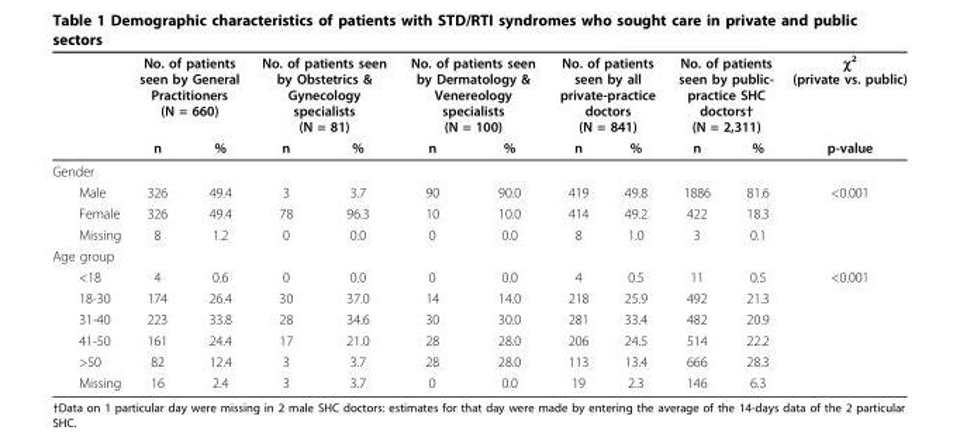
<table><thead><tr><td rowspan="2"></td><td colspan="2">No. of patients seen by General Practitioners (N = 660)</td><td colspan="2">No. of patients seen by Obstetrics &amp; Gynecology specialists (N = 81)</td><td colspan="2">No. of patients seen by Dermatology &amp; Venereology specialists (N = 100)</td><td colspan="2">No. of patients seen by all private-practice doctors (N = 841)</td><td colspan="2">No. of patients seen by public- practice SHC doctors† (N = 2,311)</td><td rowspan="2">χ<sup>2</sup> (private vs. public) p-value</td></tr><tr><td>n</td><td>%</td><td>n</td><td>%</td><td>n</td><td>%</td><td>n</td><td>%</td><td>n</td><td>%</td></tr></thead><tbody><tr><td colspan="12">Gender</td></tr><tr><td>Male</td><td>326</td><td>49.4</td><td>3</td><td>3.7</td><td>90</td><td>90.0</td><td>419</td><td>49.8</td><td>1886</td><td>81.6</td><td>&lt;0.001</td></tr><tr><td>Female</td><td>326</td><td>49.4</td><td>78</td><td>96.3</td><td>10</td><td>10.0</td><td>414</td><td>49.2</td><td>422</td><td>18.3</td><td></td></tr><tr><td>Missing</td><td>8</td><td>1.2</td><td>0</td><td>0.0</td><td>0</td><td>0.0</td><td>8</td><td>1.0</td><td>3</td><td>0.1</td><td></td></tr><tr><td colspan="12">Age group</td></tr><tr><td>&lt;18</td><td>4</td><td>0.6</td><td>0</td><td>0.0</td><td>0</td><td>0.0</td><td>4</td><td>0.5</td><td>11</td><td>0.5</td><td>&lt;0.001</td></tr><tr><td>18-30</td><td>174</td><td>26.4</td><td>30</td><td>37.0</td><td>14</td><td>14.0</td><td>218</td><td>25.9</td><td>492</td><td>21.3</td><td></td></tr><tr><td>31-40</td><td>223</td><td>33.8</td><td>28</td><td>34.6</td><td>30</td><td>30.0</td><td>281</td><td>33.4</td><td>482</td><td>20.9</td><td></td></tr><tr><td>41-50</td><td>161</td><td>24.4</td><td>17</td><td>21.0</td><td>28</td><td>28.0</td><td>206</td><td>24.5</td><td>514</td><td>22.2</td><td></td></tr><tr><td>&gt;50</td><td>82</td><td>12.4</td><td>3</td><td>3.7</td><td>28</td><td>28.0</td><td>113</td><td>13.4</td><td>666</td><td>28.3</td><td></td></tr><tr><td>Missing</td><td>16</td><td>2.4</td><td>3</td><td>3.7</td><td>0</td><td>0.0</td><td>19</td><td>2.3</td><td>146</td><td>6.3</td><td></td></tr></tbody></table>